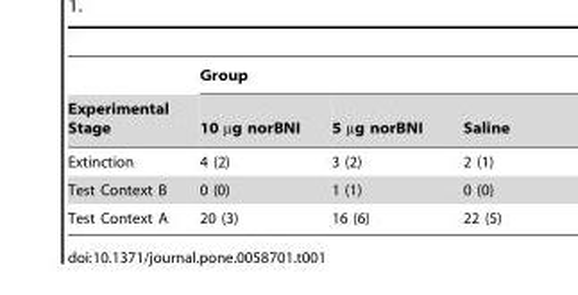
<table><thead><tr><td rowspan="2">Experimental Stage</td><td colspan="3">Group</td></tr><tr><td>10 µg norBNI</td><td>5 µg norBNI</td><td>Saline</td></tr></thead><tbody><tr><td>Extinction</td><td>4 (2)</td><td>3 (2)</td><td>2 (1)</td></tr><tr><td>Test Context B</td><td>0 (0)</td><td>1 (1)</td><td>0 (0)</td></tr><tr><td>Test Context A</td><td>20 (3)</td><td>16 (6)</td><td>22 (5)</td></tr></tbody></table>